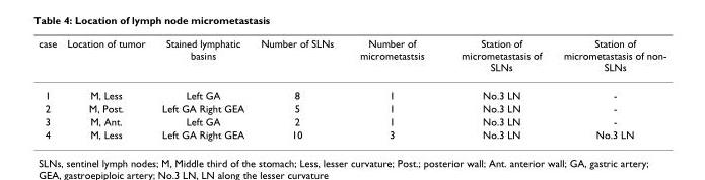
<table><thead><tr><td>case</td><td>Location of tumor</td><td>Stained lymphatic basins</td><td>Number of SLNs</td><td>Number of micrometastsis</td><td>Station of micrometastasis of SLNs</td><td>Station of micrometastasis of non- SLNs</td></tr></thead><tbody><tr><td>1</td><td>M, Less</td><td>Left GA</td><td>8</td><td>1</td><td>No.3 LN</td><td>-</td></tr><tr><td>2</td><td>M, Post.</td><td>Left GA Right GEA</td><td>5</td><td>1</td><td>No.3 LN</td><td>-</td></tr><tr><td>3</td><td>M, Ant.</td><td>Left GA</td><td>2</td><td>1</td><td>No.3 LN</td><td>-</td></tr><tr><td>4</td><td>M, Less</td><td>Left GA Right GEA</td><td>10</td><td>3</td><td>No.3 LN</td><td>No.3 LN</td></tr></tbody></table>